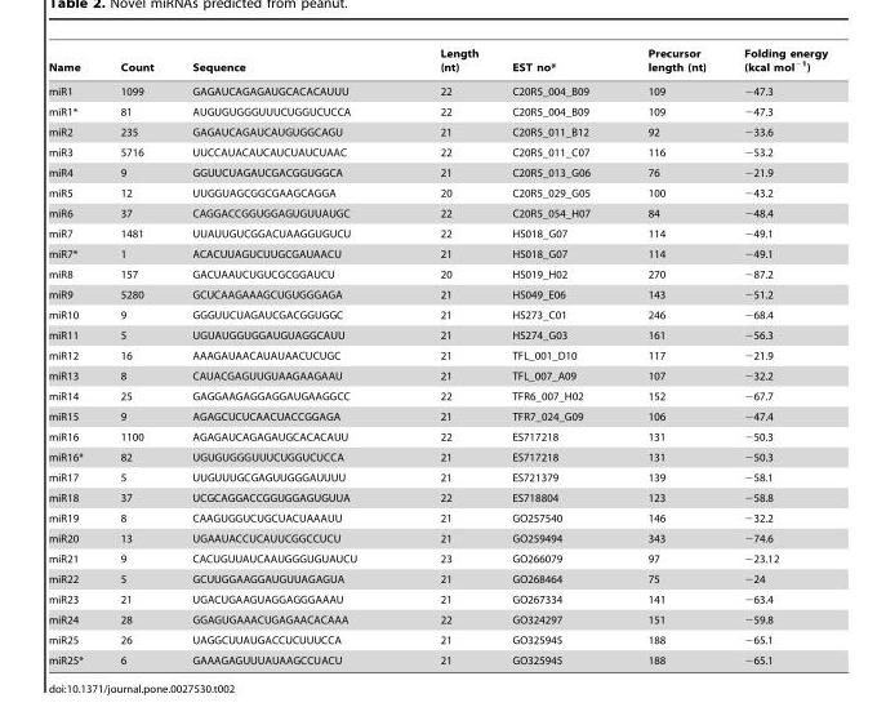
<table><thead><tr><td>Name</td><td>Count</td><td>Sequence</td><td>Length (nt)</td><td>EST no*</td><td>Precursor length (nt)</td><td>Folding energy (kcal mol<sup>−1</sup>)</td></tr></thead><tbody><tr><td>miR1</td><td>1099</td><td>GAGAUCAGAGAUGCACACAUUU</td><td>22</td><td>C20R5_004_B09</td><td>109</td><td>−47.3</td></tr><tr><td>miR1*</td><td>81</td><td>AUGUGUGGGUUUCUGGUCUCCA</td><td>22</td><td>C20R5_004_B09</td><td>109</td><td>−47.3</td></tr><tr><td>miR2</td><td>235</td><td>GAGAUCAGAUCAUGUGGCAGU</td><td>21</td><td>C20R5_011_B12</td><td>92</td><td>−33.6</td></tr><tr><td>miR3</td><td>5716</td><td>UUCCAUACAUCAUCUAUCUAAC</td><td>22</td><td>C20R5_011_C07</td><td>116</td><td>−53.2</td></tr><tr><td>miR4</td><td>9</td><td>GGUUCUAGAUCGACGGUGGCA</td><td>21</td><td>C20R5_013_G06</td><td>76</td><td>−21.9</td></tr><tr><td>miR5</td><td>12</td><td>UUGGUAGCGGCGAAGCAGGA</td><td>20</td><td>C20R5_029_G05</td><td>100</td><td>−43.2</td></tr><tr><td>miR6</td><td>37</td><td>CAGGACCGGUGGAGUGUUAUGC</td><td>22</td><td>C20R5_054_H07</td><td>84</td><td>−48.4</td></tr><tr><td>miR7</td><td>1481</td><td>UUAUUGUCGGACUAAGGUGUCU</td><td>22</td><td>HS018_G07</td><td>114</td><td>−49.1</td></tr><tr><td>miR7*</td><td>1</td><td>ACACUUAGUCUUGCGAUAACU</td><td>21</td><td>HS018_G07</td><td>114</td><td>−49.1</td></tr><tr><td>miR8</td><td>157</td><td>GACUAAUCUGUCGCGGAUCU</td><td>20</td><td>HS019_H02</td><td>270</td><td>−87.2</td></tr><tr><td>miR9</td><td>5280</td><td>GCUCAAGAAAGCUGUGGGAGA</td><td>21</td><td>HS049_E06</td><td>143</td><td>−51.2</td></tr><tr><td>miR10</td><td>9</td><td>GGGUUCUAGAUCGACGGUGGC</td><td>21</td><td>HS273_C01</td><td>246</td><td>−68.4</td></tr><tr><td>miR11</td><td>5</td><td>UGUAUGGUGGAUGUAGGCAUU</td><td>21</td><td>HS274_G03</td><td>161</td><td>−56.3</td></tr><tr><td>miR12</td><td>16</td><td>AAAGAUAACAUAUAACUCUGC</td><td>21</td><td>TFL_001_D10</td><td>117</td><td>−21.9</td></tr><tr><td>miR13</td><td>8</td><td>CAUACGAGUUGUAAGAAGAAU</td><td>21</td><td>TFL_007_A09</td><td>107</td><td>−32.2</td></tr><tr><td>miR14</td><td>25</td><td>GAGGAAGAGGAGGAUGAAGGCC</td><td>22</td><td>TFR6_007_H02</td><td>152</td><td>−67.7</td></tr><tr><td>miR15</td><td>9</td><td>AGAGCUCUCAACUACCGGAGA</td><td>21</td><td>TFR7_024_G09</td><td>106</td><td>−47.4</td></tr><tr><td>miR16</td><td>1100</td><td>AGAGAUCAGAGAUGCACACAUU</td><td>22</td><td>ES717218</td><td>131</td><td>−50.3</td></tr><tr><td>miR16*</td><td>82</td><td>UGUGUGGGUUUCUGGUCUCCA</td><td>21</td><td>ES717218</td><td>131</td><td>−50.3</td></tr><tr><td>miR17</td><td>5</td><td>UUGUUUGCGAGUUGGGAUUUU</td><td>21</td><td>ES721379</td><td>139</td><td>−58.1</td></tr><tr><td>miR18</td><td>37</td><td>UCGCAGGACCGGUGGAGUGUUA</td><td>22</td><td>ES718804</td><td>123</td><td>−58.8</td></tr><tr><td>miR19</td><td>8</td><td>CAAGUGGUCUGCUACUAAAUU</td><td>21</td><td>GO257540</td><td>146</td><td>−32.2</td></tr><tr><td>miR20</td><td>13</td><td>UGAAUACCUCAUUCGGCCUCU</td><td>21</td><td>GO259494</td><td>343</td><td>−74.6</td></tr><tr><td>miR21</td><td>9</td><td>CACUGUUAUCAAUGGGUGUAUCU</td><td>23</td><td>GO266079</td><td>97</td><td>−23.12</td></tr><tr><td>miR22</td><td>5</td><td>GCUUGGAAGGAUGUUAGAGUA</td><td>21</td><td>GO268464</td><td>75</td><td>−24</td></tr><tr><td>miR23</td><td>21</td><td>UGACUGAAGUAGGAGGGAAAU</td><td>21</td><td>GO267334</td><td>141</td><td>−63.4</td></tr><tr><td>miR24</td><td>28</td><td>GGAGUGAAACUGAGAACACAAA</td><td>22</td><td>GO324297</td><td>151</td><td>−59.8</td></tr><tr><td>miR25</td><td>26</td><td>UAGGCUUAUGACCUCUUUCCA</td><td>21</td><td>GO325945</td><td>188</td><td>−65.1</td></tr><tr><td>miR25*</td><td>6</td><td>GAAAGAGUUUAUAAGCCUACU</td><td>21</td><td>GO325945</td><td>188</td><td>−65.1</td></tr></tbody></table>